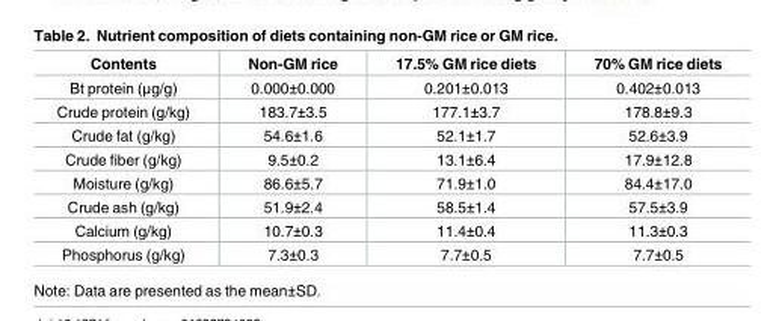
<table><thead><tr><td>Contents</td><td>Non-GM rice</td><td>17.5% GM rice diets</td><td>70% GM rice diets</td></tr></thead><tbody><tr><td>Bt protein (μg/g)</td><td>0.000±0.000</td><td>0.201±0.013</td><td>0.402±0.013</td></tr><tr><td>Crude protein (g/kg)</td><td>183.7±3.5</td><td>177.1±3.7</td><td>178.8±9.3</td></tr><tr><td>Crude fat (g/kg)</td><td>54.6±1.6</td><td>52.1±1.7</td><td>52.6±3.9</td></tr><tr><td>Crude fiber (g/kg)</td><td>9.5±0.2</td><td>13.1±6.4</td><td>17.9±12.8</td></tr><tr><td>Moisture (g/kg)</td><td>86.6±5.7</td><td>71.9±1.0</td><td>84.4±17.0</td></tr><tr><td>Crude ash (g/kg)</td><td>51.9±2.4</td><td>58.5±1.4</td><td>57.5±3.9</td></tr><tr><td>Calcium (g/kg)</td><td>10.7±0.3</td><td>11.4±0.4</td><td>11.3±0.3</td></tr><tr><td>Phosphorus (g/kg)</td><td>7.3±0.3</td><td>7.7±0.5</td><td>7.7±0.5</td></tr></tbody></table>